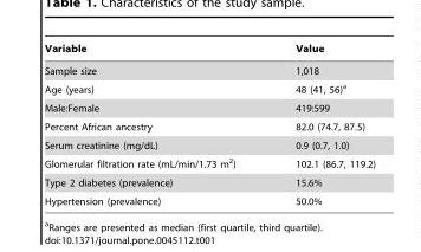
<table><thead><tr><td>Variable</td><td>Value</td></tr></thead><tbody><tr><td>Sample size</td><td>1,018</td></tr><tr><td>Age (years)</td><td>48 (41, 56)<sup>a</sup></td></tr><tr><td>Male:Female</td><td>419:599</td></tr><tr><td>Percent African ancestry</td><td>82.0 (74.7, 87.5)</td></tr><tr><td>Serum creatinine (mg/dL)</td><td>0.9 (0.7, 1.0)</td></tr><tr><td>Glomerular filtration rate (mL/min/1.73 m<sup>2</sup>)</td><td>102.1 (86.7, 119.2)</td></tr><tr><td>Type 2 diabetes (prevalence)</td><td>15.6%</td></tr><tr><td>Hypertension (prevalence)</td><td>50.0%</td></tr></tbody></table>